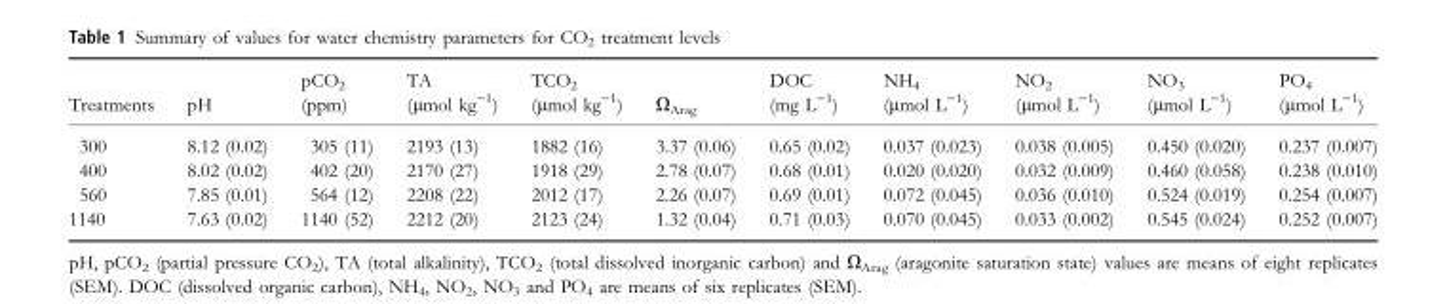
<table><thead><tr><td>Treatments</td><td>pH</td><td>pCO<sub>2</sub> (ppm)</td><td>TA (μmol kg<sup>−1</sup>)</td><td>TCO<sub>2</sub> (μmol kg<sup>−1</sup>)</td><td>Ω<sub>Arag</sub></td><td>DOC (mg L<sup>−1</sup>)</td><td>NH<sub>4</sub> (μmol L<sup>−1</sup>)</td><td>NO<sub>2</sub> (μmol L<sup>−1</sup>)</td><td>NO<sub>3</sub> (μmol L<sup>−1</sup>)</td><td>PO<sub>4</sub> (μmol L<sup>−1</sup>)</td></tr></thead><tbody><tr><td>300</td><td>8.12 (0.02)</td><td>305 (11)</td><td>2193 (13)</td><td>1882 (16)</td><td>3.37 (0.06)</td><td>0.65 (0.02)</td><td>0.037 (0.023)</td><td>0.038 (0.005)</td><td>0.450 (0.020)</td><td>0.237 (0.007)</td></tr><tr><td>400</td><td>8.02 (0.02)</td><td>402 (20)</td><td>2170 (27)</td><td>1918 (29)</td><td>2.78 (0.07)</td><td>0.68 (0.01)</td><td>0.020 (0.020)</td><td>0.032 (0.009)</td><td>0.460 (0.058)</td><td>0.238 (0.010)</td></tr><tr><td>560</td><td>7.85 (0.01)</td><td>564 (12)</td><td>2208 (22)</td><td>2012 (17)</td><td>2.26 (0.07)</td><td>0.69 (0.01)</td><td>0.072 (0.045)</td><td>0.036 (0.010)</td><td>0.524 (0.019)</td><td>0.254 (0.007)</td></tr><tr><td>1140</td><td>7.63 (0.02)</td><td>1140 (52)</td><td>2212 (20)</td><td>2123 (24)</td><td>1.32 (0.04)</td><td>0.71 (0.03)</td><td>0.070 (0.045)</td><td>0.033 (0.002)</td><td>0.545 (0.024)</td><td>0.252 (0.007)</td></tr></tbody></table>